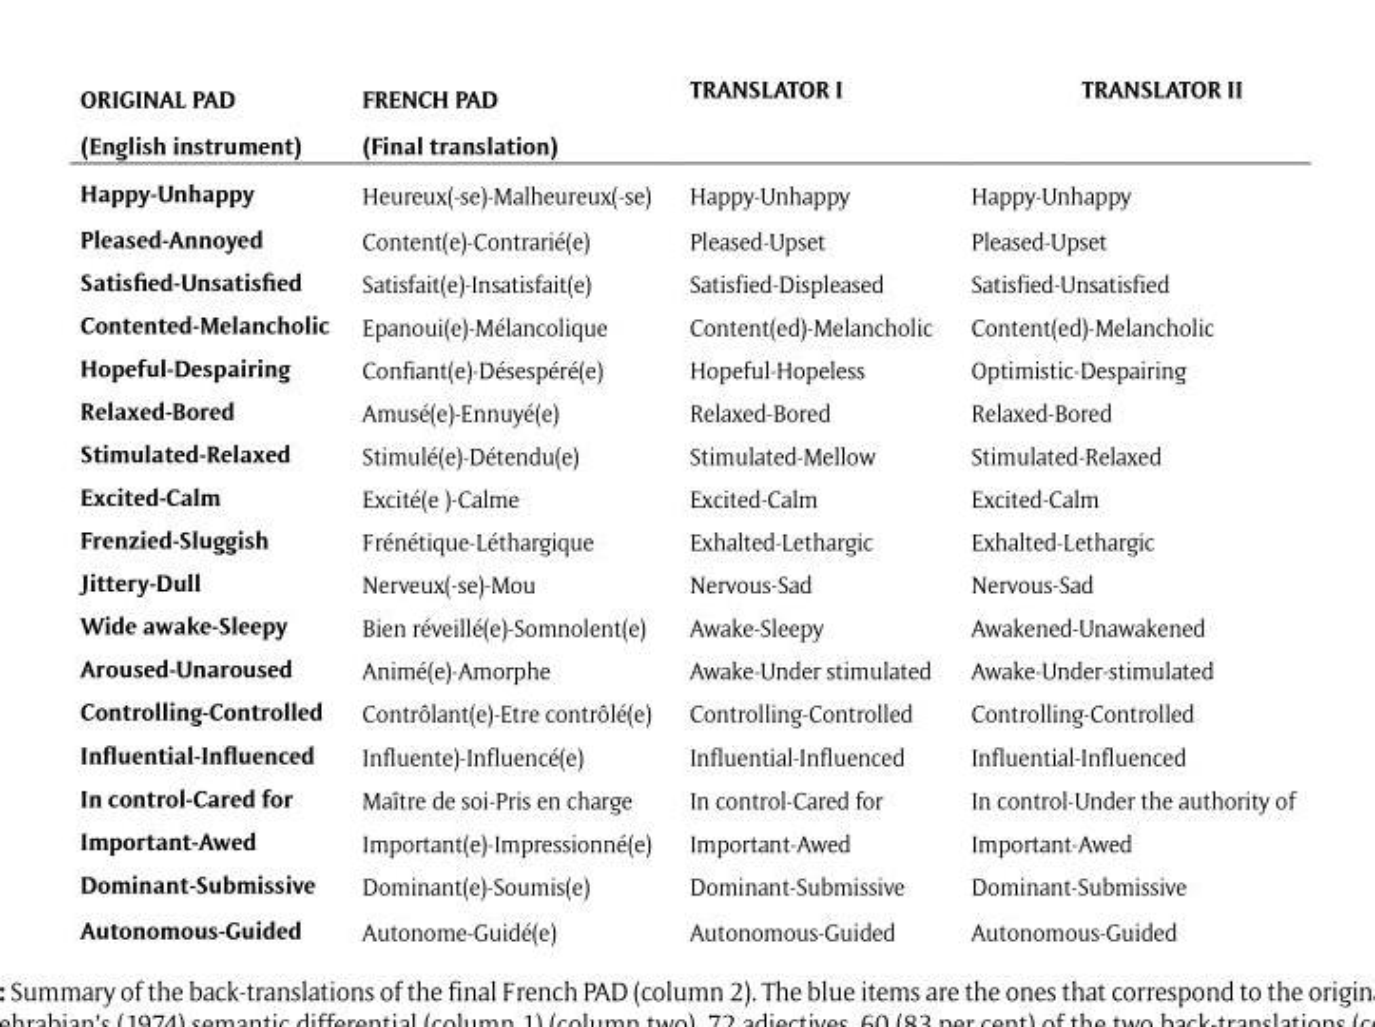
<table><thead><tr><td rowspan="2">ORIGINAL PAD (English instrument)</td><td rowspan="2">FRENCH PAD (Final translation)</td><td rowspan="2">TRANSLATOR I</td><td rowspan="2">TRANSLATOR II</td></tr><tr></tr></thead><tbody><tr><td>Happy-Unhappy</td><td>Heureux(-se)-Malheureux(-se)</td><td>Happy-Unhappy</td><td>Happy-Unhappy</td></tr><tr><td>Pleased-Annoyed</td><td>Content(e)-Contrarié(e)</td><td>Pleased-Upset</td><td>Pleased-Upset</td></tr><tr><td>Satisfied-Unsatisfied</td><td>Satisfait(e)-Insatisfait(e)</td><td>Satisfied-Displeased</td><td>Satisfied-Unsatisfied</td></tr><tr><td>Contented-Melancholic</td><td>Epanoui(e)-Mélancolique</td><td>Content(ed)-Melancholic</td><td>Content(ed)-Melancholic</td></tr><tr><td>Hopeful-Despairing</td><td>Confiant(e)-Désespéré(e)</td><td>Hopeful-Hopeless</td><td>Optimistic-Despairing</td></tr><tr><td>Relaxed-Bored</td><td>Amusé(e)-Ennuyé(e)</td><td>Relaxed-Bored</td><td>Relaxed-Bored</td></tr><tr><td>Stimulated-Relaxed</td><td>Stimulé(e)-Détendu(e)</td><td>Stimulated-Mellow</td><td>Stimulated-Relaxed</td></tr><tr><td>Excited-Calm</td><td>Excité(e )-Calme</td><td>Excited-Calm</td><td>Excited-Calm</td></tr><tr><td>Frenzied-Sluggish</td><td>Frénétique-Léthargique</td><td>Exhalted-Lethargic</td><td>Exhalted-Lethargic</td></tr><tr><td>Jittery-Dull</td><td>Nerveux(-se)-Mou</td><td>Nervous-Sad</td><td>Nervous-Sad</td></tr><tr><td>Wide awake-Sleepy</td><td>Bien réveillé(e)-Somnolent(e)</td><td>Awake-Sleepy</td><td>Awakened-Unawakened</td></tr><tr><td>Aroused-Unaroused</td><td>Animé(e)-Amorphe</td><td>Awake-Under stimulated</td><td>Awake-Under-stimulated</td></tr><tr><td>Controlling-Controlled</td><td>Contrôlant(e)-Etre contrôlé(e)</td><td>Controlling-Controlled</td><td>Controlling-Controlled</td></tr><tr><td>Influential-Influenced</td><td>Influente)-Influencé(e)</td><td>Influential-Influenced</td><td>Influential-Influenced</td></tr><tr><td>In control-Cared for</td><td>Maître de soi-Pris en charge</td><td>In control-Cared for</td><td>In control-Under the authority of</td></tr><tr><td>Important-Awed</td><td>Important(e)-Impressionné(e)</td><td>Important-Awed</td><td>Important-Awed</td></tr><tr><td>Dominant-Submissive</td><td>Dominant(e)-Soumis(e)</td><td>Dominant-Submissive</td><td>Dominant-Submissive</td></tr><tr><td>Autonomous-Guided</td><td>Autonome-Guidé(e)</td><td>Autonomous-Guided</td><td>Autonomous-Guided</td></tr></tbody></table>